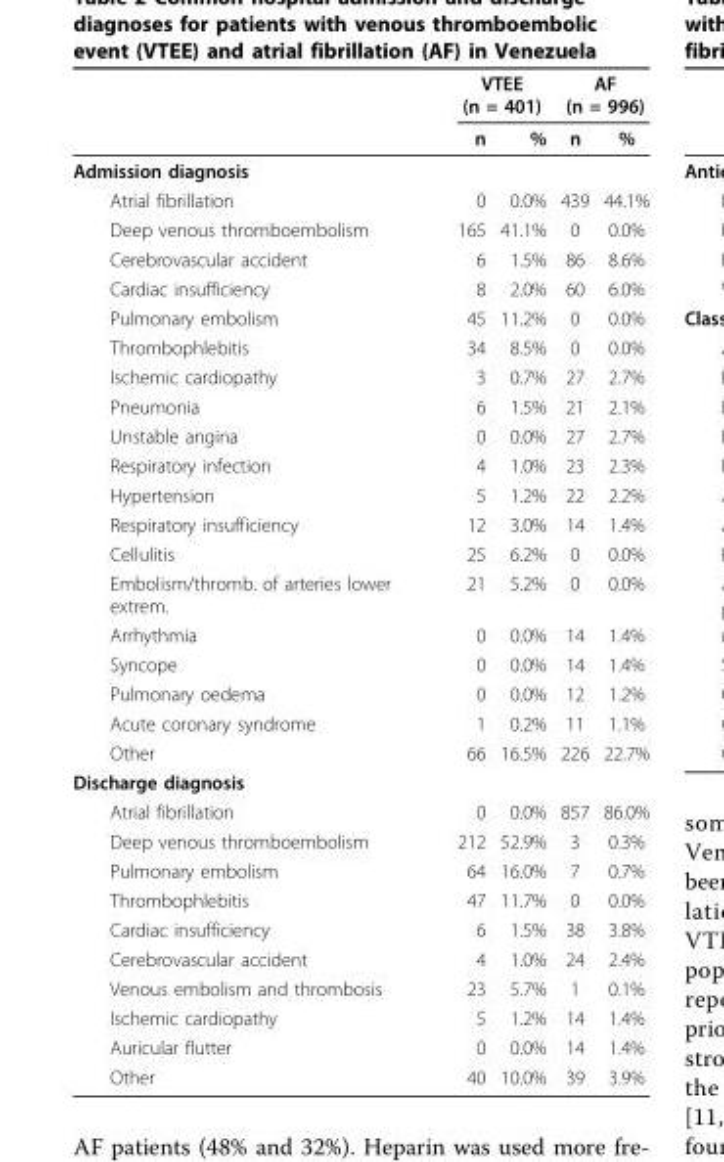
<table><thead><tr><td rowspan="2"></td><td colspan="2">VTEE (n = 401)</td><td colspan="2">AF (n = 996)</td></tr><tr><td>n</td><td>%</td><td>n</td><td>%</td></tr></thead><tbody><tr><td colspan="5">Admission diagnosis</td></tr><tr><td>Atrial fibrillation</td><td>0</td><td>0.0%</td><td>439</td><td>44.1%</td></tr><tr><td>Deep venous thromboembolism</td><td>165</td><td>41.1%</td><td>0</td><td>0.0%</td></tr><tr><td>Cerebrovascular accident</td><td>6</td><td>1.5%</td><td>86</td><td>8.6%</td></tr><tr><td>Cardiac insufficiency</td><td>8</td><td>2.0%</td><td>60</td><td>6.0%</td></tr><tr><td>Pulmonary embolism</td><td>45</td><td>11.2%</td><td>0</td><td>0.0%</td></tr><tr><td>Thrombophlebitis</td><td>34</td><td>8.5%</td><td>0</td><td>0.0%</td></tr><tr><td>Ischemic cardiopathy</td><td>3</td><td>0.7%</td><td>27</td><td>2.7%</td></tr><tr><td>Pneumonia</td><td>6</td><td>1.5%</td><td>21</td><td>2.1%</td></tr><tr><td>Unstable angina</td><td>0</td><td>0.0%</td><td>27</td><td>2.7%</td></tr><tr><td>Respiratory infection</td><td>4</td><td>1.0%</td><td>23</td><td>2.3%</td></tr><tr><td>Hypertension</td><td>5</td><td>1.2%</td><td>22</td><td>2.2%</td></tr><tr><td>Respiratory insufficiency</td><td>12</td><td>3.0%</td><td>14</td><td>1.4%</td></tr><tr><td>Cellulitis</td><td>25</td><td>6.2%</td><td>0</td><td>0.0%</td></tr><tr><td>Embolism/thromb. of arteries lower extrem.</td><td>21</td><td>5.2%</td><td>0</td><td>0.0%</td></tr><tr><td>Arrhythmia</td><td>0</td><td>0.0%</td><td>14</td><td>1.4%</td></tr><tr><td>Syncope</td><td>0</td><td>0.0%</td><td>14</td><td>1.4%</td></tr><tr><td>Pulmonary oedema</td><td>0</td><td>0.0%</td><td>12</td><td>1.2%</td></tr><tr><td>Acute coronary syndrome</td><td>1</td><td>0.2%</td><td>11</td><td>1.1%</td></tr><tr><td>Other</td><td>66</td><td>16.5%</td><td>226</td><td>22.7%</td></tr><tr><td colspan="5">Discharge diagnosis</td></tr><tr><td>Atrial fibrillation</td><td>0</td><td>0.0%</td><td>857</td><td>86.0%</td></tr><tr><td>Deep venous thromboembolism</td><td>212</td><td>52.9%</td><td>3</td><td>0.3%</td></tr><tr><td>Pulmonary embolism</td><td>64</td><td>16.0%</td><td>7</td><td>0.7%</td></tr><tr><td>Thrombophlebitis</td><td>47</td><td>11.7%</td><td>0</td><td>0.0%</td></tr><tr><td>Cardiac insufficiency</td><td>6</td><td>1.5%</td><td>38</td><td>3.8%</td></tr><tr><td>Cerebrovascular accident</td><td>4</td><td>1.0%</td><td>24</td><td>2.4%</td></tr><tr><td>Venous embolism and thrombosis</td><td>23</td><td>5.7%</td><td>1</td><td>0.1%</td></tr><tr><td>Ischemic cardiopathy</td><td>5</td><td>1.2%</td><td>14</td><td>1.4%</td></tr><tr><td>Auricular flutter</td><td>0</td><td>0.0%</td><td>14</td><td>1.4%</td></tr><tr><td>Other</td><td>40</td><td>10.0%</td><td>39</td><td>3.9%</td></tr></tbody></table>